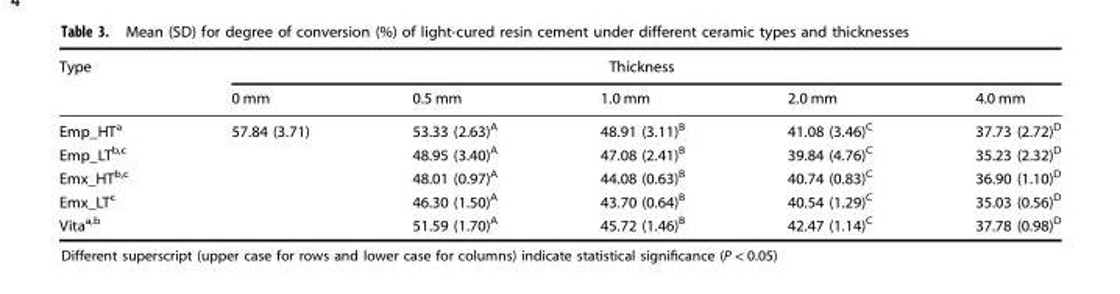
<table><thead><tr><td rowspan="2">Type</td><td colspan="5">Thickness</td></tr><tr><td>0 mm</td><td>0.5 mm</td><td>1.0 mm</td><td>2.0 mm</td><td>4.0 mm</td></tr></thead><tbody><tr><td>Emp_HT<sup>a</sup></td><td rowspan="5">57.84 (3.71)</td><td>53.33 (2.63)<sup>A</sup></td><td>48.91 (3.11)<sup>B</sup></td><td>41.08 (3.46)<sup>C</sup></td><td>37.73 (2.72)<sup>D</sup></td></tr><tr><td>Emp_LT<sup>b,c</sup></td><td>48.95 (3.40)<sup>A</sup></td><td>47.08 (2.41)<sup>B</sup></td><td>39.84 (4.76)<sup>C</sup></td><td>35.23 (2.32)<sup>D</sup></td></tr><tr><td>Emx_HT<sup>b,c</sup></td><td>48.01 (0.97)<sup>A</sup></td><td>44.08 (0.63)<sup>B</sup></td><td>40.74 (0.83)<sup>C</sup></td><td>36.90 (1.10)<sup>D</sup></td></tr><tr><td>Emx_LT<sup>c</sup></td><td>46.30 (1.50)<sup>A</sup></td><td>43.70 (0.64)<sup>B</sup></td><td>40.54 (1.29)<sup>C</sup></td><td>35.03 (0.56)<sup>D</sup></td></tr><tr><td>Vita<sup>a,b</sup></td><td>51.59 (1.70)<sup>A</sup></td><td>45.72 (1.46)<sup>B</sup></td><td>42.47 (1.14)<sup>C</sup></td><td>37.78 (0.98)<sup>D</sup></td></tr></tbody></table>